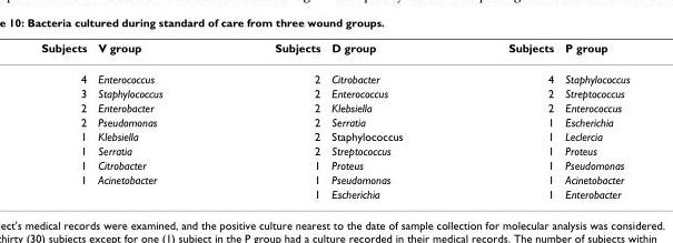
<table><thead><tr><td>Subjects</td><td>V group</td><td>Subjects</td><td>D group</td><td>Subjects</td><td>P group</td></tr></thead><tbody><tr><td>4</td><td>Enterococcus</td><td>2</td><td>Citrobacter</td><td>4</td><td>Staphylococcus</td></tr><tr><td>3</td><td>Staphylococcus</td><td>2</td><td>Enterococcus</td><td>2</td><td>Streptococcus</td></tr><tr><td>2</td><td>Enterobacter</td><td>2</td><td>Klebsiella</td><td>2</td><td>Enterococcus</td></tr><tr><td>2</td><td>Pseudomonas</td><td>2</td><td>Serratia</td><td>1</td><td>Escherichia</td></tr><tr><td>1</td><td>Klebsiella</td><td>2</td><td>Staphylococcus</td><td>1</td><td>Leclercia</td></tr><tr><td>1</td><td>Serratia</td><td>2</td><td>Streptococcus</td><td>1</td><td>Proteus</td></tr><tr><td>1</td><td>Citrobacter</td><td>1</td><td>Proteus</td><td>1</td><td>Pseudomonas</td></tr><tr><td rowspan="2">1</td><td>Acinetobacter</td><td>1</td><td>Pseudomonas</td><td>1</td><td>Acinetobacter</td></tr><tr><td></td><td>1</td><td>Escherichia</td><td>1</td><td>Enterobacter</td></tr></tbody></table>